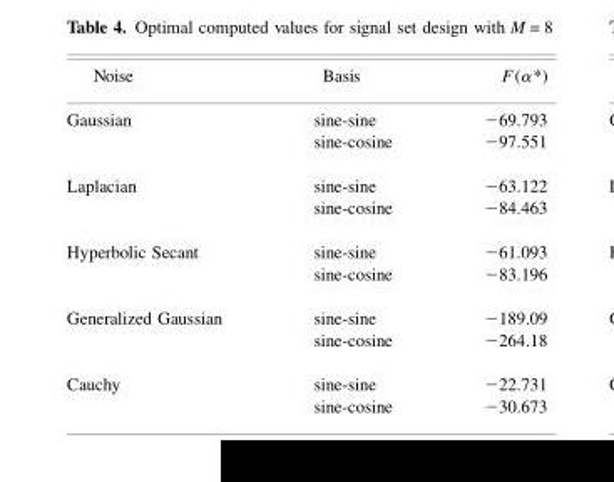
<table><thead><tr><td>Noise</td><td>Basis</td><td>F(α*)</td></tr></thead><tbody><tr><td rowspan="2">Gaussian</td><td>sine-sine</td><td>−69.793</td></tr><tr><td>sine-cosine</td><td>−97.551</td></tr><tr><td rowspan="2">Laplacian</td><td>sine-sine</td><td>−63.122</td></tr><tr><td>sine-cosine</td><td>−84.463</td></tr><tr><td rowspan="2">Hyperbolic Secant</td><td>sine-sine</td><td>−61.093</td></tr><tr><td>sine-cosine</td><td>−83.196</td></tr><tr><td rowspan="2">Generalized Gaussian</td><td>sine-sine</td><td>−189.09</td></tr><tr><td>sine-cosine</td><td>−264.18</td></tr><tr><td rowspan="2">Cauchy</td><td>sine-sine</td><td>−22.731</td></tr><tr><td>sine-cosine</td><td>−30.673</td></tr></tbody></table>